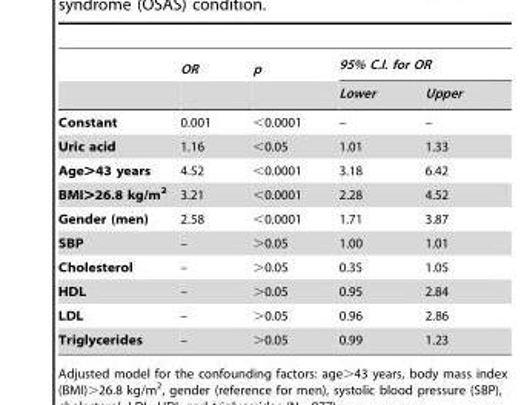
<table><thead><tr><td rowspan="2"></td><td rowspan="2">OR</td><td rowspan="2">p</td><td colspan="2">95% C.I. for OR</td></tr><tr><td>Lower</td><td>Upper</td></tr></thead><tbody><tr><td>Constant</td><td>0.001</td><td>&lt;0.0001</td><td>–</td><td>–</td></tr><tr><td>Uric acid</td><td>1.16</td><td>&lt;0.05</td><td>1.01</td><td>1.33</td></tr><tr><td>Age&gt;43 years</td><td>4.52</td><td>&lt;0.0001</td><td>3.18</td><td>6.42</td></tr><tr><td>BMI&gt;26.8 kg/m<sup>2</sup></td><td>3.21</td><td>&lt;0.0001</td><td>2.28</td><td>4.52</td></tr><tr><td>Gender (men)</td><td>2.58</td><td>&lt;0.0001</td><td>1.71</td><td>3.87</td></tr><tr><td>SBP</td><td>–</td><td>&gt;0.05</td><td>1.00</td><td>1.01</td></tr><tr><td>Cholesterol</td><td>–</td><td>&gt;0.05</td><td>0.35</td><td>1.05</td></tr><tr><td>HDL</td><td>–</td><td>&gt;0.05</td><td>0.95</td><td>2.84</td></tr><tr><td>LDL</td><td>–</td><td>&gt;0.05</td><td>0.96</td><td>2.86</td></tr><tr><td>Triglycerides</td><td>–</td><td>&gt;0.05</td><td>0.99</td><td>1.23</td></tr></tbody></table>